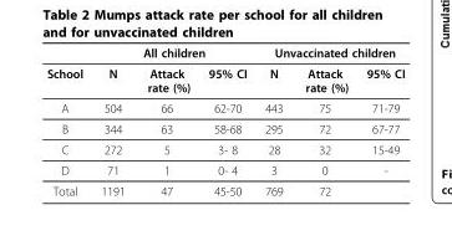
<table><thead><tr><td rowspan="2">School</td><td colspan="3">All children</td><td colspan="3">Unvaccinated children</td></tr><tr><td>N</td><td>Attack rate (%)</td><td>95% CI</td><td>N</td><td>Attack rate (%)</td><td>95% CI</td></tr></thead><tbody><tr><td>A</td><td>504</td><td>66</td><td>62-70</td><td>443</td><td>75</td><td>71-79</td></tr><tr><td>B</td><td>344</td><td>63</td><td>58-68</td><td>295</td><td>72</td><td>67-77</td></tr><tr><td>C</td><td>272</td><td>5</td><td>3- 8</td><td>28</td><td>32</td><td>15-49</td></tr><tr><td>D</td><td>71</td><td>1</td><td>0- 4</td><td>3</td><td>0</td><td>-</td></tr><tr><td>Total</td><td>1191</td><td>47</td><td>45-50</td><td>769</td><td>72</td><td></td></tr></tbody></table>